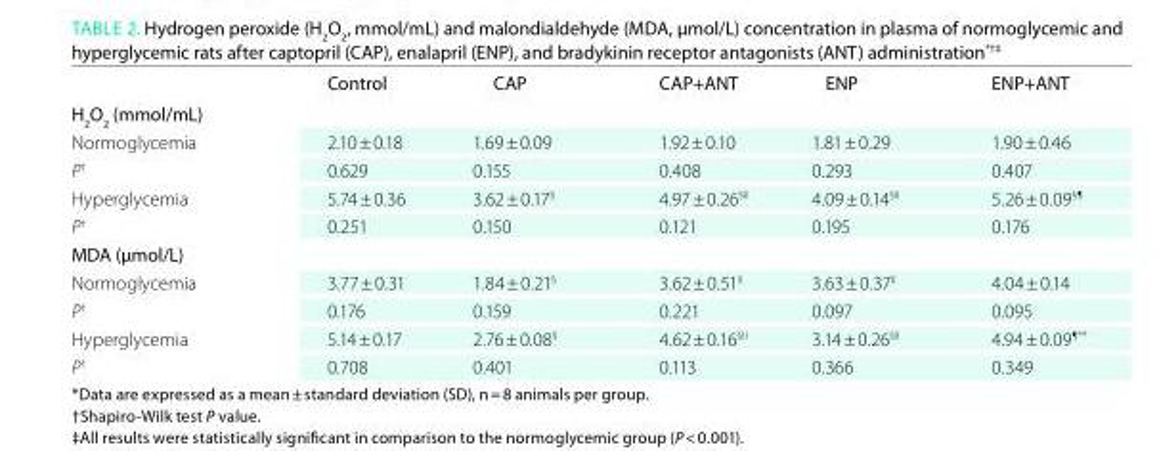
<table><thead><tr><td></td><td>Control</td><td>CAP</td><td>CAP+ANt</td><td>ENP</td><td>ENP+ANt</td></tr></thead><tbody><tr><td colspan="6">H<sub>2</sub>O<sub>2</sub> (mmol/ml)</td></tr><tr><td>Normoglycemia</td><td>2.10 ± 0.18</td><td>1.69 ± 0.09</td><td>1.92 ± 0.10</td><td>1.81 ± 0.29</td><td>1.90 ± 0.46</td></tr><tr><td>P<sup>†</sup></td><td>0.629</td><td>0.155</td><td>0.408</td><td>0.293</td><td>0.407</td></tr><tr><td>Hyperglycemia</td><td>5.74 ± 0.36</td><td>3.62 ± 0.17<sup>§</sup></td><td>4.97 ± 0.26§II</td><td>4.09 ± 0.14§II</td><td>5.26 ± 0.09<sup>§¶</sup></td></tr><tr><td>P<sup>†</sup></td><td>0.251</td><td>0.150</td><td>0.121</td><td>0.195</td><td>0.176</td></tr><tr><td colspan="6">MDA (µmol/l)</td></tr><tr><td>Normoglycemia</td><td>3.77 ± 0.31</td><td>1.84 ± 0.21<sup>§</sup></td><td>3.62 ± 0.51II</td><td>3.63 ± 0.37II</td><td>4.04 ± 0.14</td></tr><tr><td>P<sup>†</sup></td><td>0.176</td><td>0.159</td><td>0.221</td><td>0.097</td><td>0.095</td></tr><tr><td>Hyperglycemia</td><td>5.14 ± 0.17</td><td>2.76 ± 0.08<sup>§</sup></td><td>4.62 ± 0.16§II</td><td>3.14 ± 0.26§II</td><td>4.94 ± 0.09<sup>¶**</sup></td></tr><tr><td>P<sup>†</sup></td><td>0.708</td><td>0.401</td><td>0.113</td><td>0.366</td><td>0.349</td></tr></tbody></table>